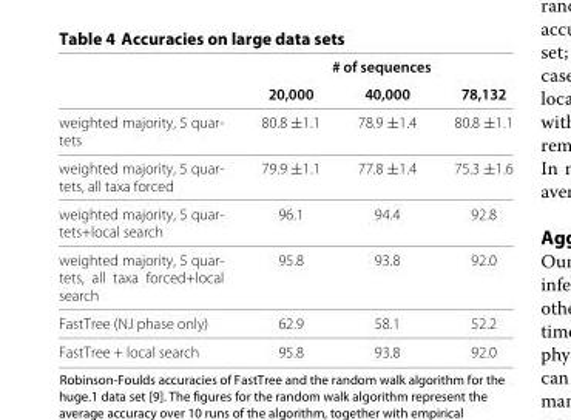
<table><thead><tr><td rowspan="2"></td><td rowspan="2">20,000</td><td rowspan="2"># of sequences 40,000</td><td rowspan="2">78,132</td></tr><tr></tr></thead><tbody><tr><td>weighted majority, 5 quar- tets</td><td>80.8 ±1.1</td><td>78.9 ±1.4</td><td>80.8 ±1.1</td></tr><tr><td>weighted majority, 5 quar- tets, all taxa forced</td><td>79.9 ±1.1</td><td>77.8 ±1.4</td><td>75.3 ±1.6</td></tr><tr><td>weighted majority, 5 quar- tets+local search</td><td>96.1</td><td>94.4</td><td>92.8</td></tr><tr><td>weighted majority, 5 quar- tets, all taxa forced+local search</td><td>95.8</td><td>93.8</td><td>92.0</td></tr><tr><td>FastTree (NJ phase only)</td><td>62.9</td><td>58.1</td><td>52.2</td></tr><tr><td>FastTree + local search</td><td>95.8</td><td>93.8</td><td>92.0</td></tr></tbody></table>